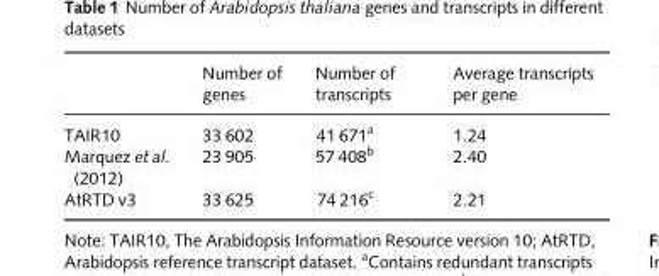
<table><thead><tr><td></td><td>Number of genes</td><td>Number of transcripts</td><td>Average transcripts per gene</td></tr></thead><tbody><tr><td>TAIR10</td><td>33 602</td><td>41 671<sup>a</sup></td><td>1.24</td></tr><tr><td>Marquez et al. (2012)</td><td>23 905</td><td>57 408<sup>b</sup></td><td>2.40</td></tr><tr><td>AtRTD v3</td><td>33 625</td><td>74 216<sup>c</sup></td><td>2.21</td></tr></tbody></table>